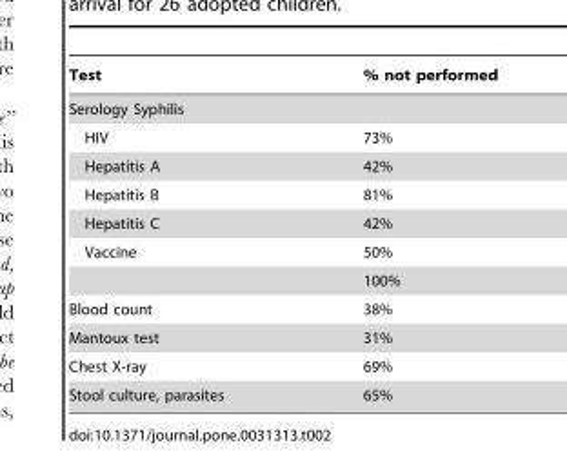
<table><thead><tr><td>Test</td><td>% not performed</td></tr></thead><tbody><tr><td colspan="2">Serology Syphilis</td></tr><tr><td>HIV</td><td>73%</td></tr><tr><td>Hepatitis A</td><td>42%</td></tr><tr><td>Hepatitis B</td><td>81%</td></tr><tr><td>Hepatitis C</td><td>42%</td></tr><tr><td rowspan="2">Vaccine</td><td>50%</td></tr><tr><td>100%</td></tr><tr><td>Blood count</td><td>38%</td></tr><tr><td>Mantoux test</td><td>31%</td></tr><tr><td>Chest X-ray</td><td>69%</td></tr><tr><td>Stool culture, parasites</td><td>65%</td></tr></tbody></table>